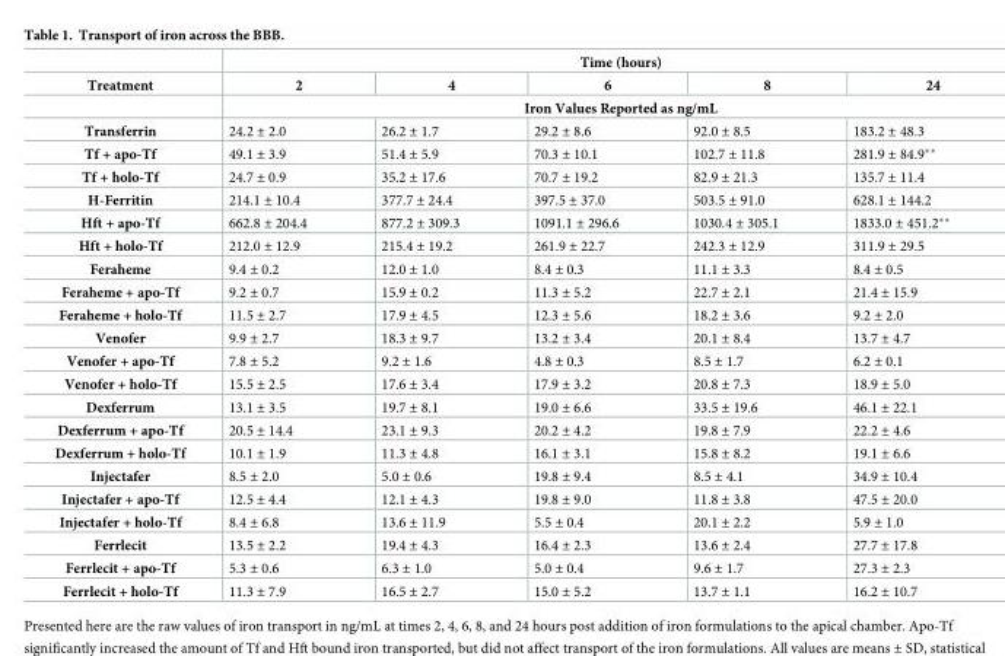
<table><thead><tr><td rowspan="3">Treatment</td><td colspan="5">Time (hours)</td></tr><tr><td>2</td><td>4</td><td>6</td><td>8</td><td>24</td></tr><tr><td colspan="5">Iron Values Reported as ng/mL</td></tr></thead><tbody><tr><td>Transferrin</td><td>24.2 ± 2.0</td><td>26.2 ± 1.7</td><td>29.2 ± 8.6</td><td>92.0 ± 8.5</td><td>183.2 ± 48.3</td></tr><tr><td>Tf + apo-Tf</td><td>49.1 ± 3.9</td><td>51.4 ± 5.9</td><td>70.3 ± 10.1</td><td>102.7 ± 11.8</td><td>281.9 ± 84.9**</td></tr><tr><td>Tf + holo-Tf</td><td>24.7 ± 0.9</td><td>35.2 ± 17.6</td><td>70.7 ± 19.2</td><td>82.9 ± 21.3</td><td>135.7 ± 11.4</td></tr><tr><td>H-Ferritin</td><td>214.1 ± 10.4</td><td>377.7 ± 24.4</td><td>397.5 ± 37.0</td><td>503.5 ± 91.0</td><td>628.1 ± 144.2</td></tr><tr><td>Hft + apo-Tf</td><td>662.8 ± 204.4</td><td>877.2 ± 309.3</td><td>1091.1 ± 296.6</td><td>1030.4 ± 305.1</td><td>1833.0 ± 451.2**</td></tr><tr><td>Hft + holo-Tf</td><td>212.0 ± 12.9</td><td>215.4 ± 19.2</td><td>261.9 ± 22.7</td><td>242.3 ± 12.9</td><td>311.9 ± 29.5</td></tr><tr><td>Feraheme</td><td>9.4 ± 0.2</td><td>12.0 ± 1.0</td><td>8.4 ± 0.3</td><td>11.1 ± 3.3</td><td>8.4 ± 0.5</td></tr><tr><td>Feraheme + apo-Tf</td><td>9.2 ± 0.7</td><td>15.9 ± 0.2</td><td>11.3 ± 5.2</td><td>22.7 ± 2.1</td><td>21.4 ± 15.9</td></tr><tr><td>Feraheme + holo-Tf</td><td>11.5 ± 2.7</td><td>17.9 ± 4.5</td><td>12.3 ± 5.6</td><td>18.2 ± 3.6</td><td>9.2 ± 2.0</td></tr><tr><td>Venofer</td><td>9.9 ± 2.7</td><td>18.3 ± 9.7</td><td>13.2 ± 3.4</td><td>20.1 ± 8.4</td><td>13.7 ± 4.7</td></tr><tr><td>Venofer + apo-Tf</td><td>7.8 ± 5.2</td><td>9.2 ± 1.6</td><td>4.8 ± 0.3</td><td>8.5 ± 1.7</td><td>6.2 ± 0.1</td></tr><tr><td>Venofer + holo-Tf</td><td>15.5 ± 2.5</td><td>17.6 ± 3.4</td><td>17.9 ± 3.2</td><td>20.8 ± 7.3</td><td>18.9 ± 5.0</td></tr><tr><td>Dexferrum</td><td>13.1 ± 3.5</td><td>19.7 ± 8.1</td><td>19.0 ± 6.6</td><td>33.5 ± 19.6</td><td>46.1 ± 22.1</td></tr><tr><td>Dexferrum + apo-Tf</td><td>20.5 ± 14.4</td><td>23.1 ± 9.3</td><td>20.2 ± 4.2</td><td>19.8 ± 7.9</td><td>22.2 ± 4.6</td></tr><tr><td>Dexferrum + holo-Tf</td><td>10.1 ± 1.9</td><td>11.3 ± 4.8</td><td>16.1 ± 3.1</td><td>15.8 ± 8.2</td><td>19.1 ± 6.6</td></tr><tr><td>Injectafer</td><td>8.5 ± 2.0</td><td>5.0 ± 0.6</td><td>19.8 ± 9.4</td><td>8.5 ± 4.1</td><td>34.9 ± 10.4</td></tr><tr><td>Injectafer + apo-Tf</td><td>12.5 ± 4.4</td><td>12.1 ± 4.3</td><td>19.8 ± 9.0</td><td>11.8 ± 3.8</td><td>47.5 ± 20.0</td></tr><tr><td>Injectafer + holo-Tf</td><td>8.4 ± 6.8</td><td>13.6 ± 11.9</td><td>5.5 ± 0.4</td><td>20.1 ± 2.2</td><td>5.9 ± 1.0</td></tr><tr><td>Ferrlecit</td><td>13.5 ± 2.2</td><td>19.4 ± 4.3</td><td>16.4 ± 2.3</td><td>13.6 ± 2.4</td><td>27.7 ± 17.8</td></tr><tr><td>Ferrlecit + apo-Tf</td><td>5.3 ± 0.6</td><td>6.3 ± 1.0</td><td>5.0 ± 0.4</td><td>9.6 ± 1.7</td><td>27.3 ± 2.3</td></tr><tr><td>Ferrlecit + holo-Tf</td><td>11.3 ± 7.9</td><td>16.5 ± 2.7</td><td>15.0 ± 5.2</td><td>13.7 ± 1.1</td><td>16.2 ± 10.7</td></tr></tbody></table>